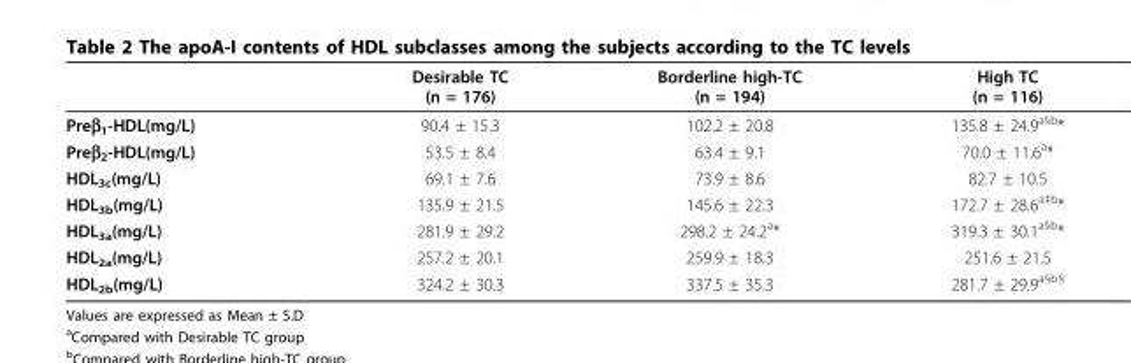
<table><thead><tr><td></td><td>Desirable TC (n = 176)</td><td>Borderline high-TC (n = 194)</td><td>High TC (n = 116)</td></tr></thead><tbody><tr><td>Preβ<sub>1</sub>-HDL(mg/L)</td><td>90.4 ± 15.3</td><td>102.2 ± 20.8</td><td>135.8 ± 24.9<sup>a§b</sup>*</td></tr><tr><td>Preβ<sub>2</sub>-HDL(mg/L)</td><td>53.5 ± 8.4</td><td>63.4 ± 9.1</td><td>70.0 ± 11.6<sup>a</sup>*</td></tr><tr><td>HDL<sub>3c</sub>(mg/L)</td><td>69.1 ± 7.6</td><td>73.9 ± 8.6</td><td>82.7 ± 10.5</td></tr><tr><td>HDL<sub>3b</sub>(mg/L)</td><td>135.9 ± 21.5</td><td>145.6 ± 22.3</td><td>172.7 ± 28.6<sup>a‡b</sup>*</td></tr><tr><td>HDL<sub>3a</sub>(mg/L)</td><td>281.9 ± 29.2</td><td>298.2 ± 24.2<sup>a</sup>*</td><td>319.3 ± 30.1<sup>a§b</sup>*</td></tr><tr><td>HDL<sub>2a</sub>(mg/L)</td><td>257.2 ± 20.1</td><td>259.9 ± 18.3</td><td>251.6 ± 21.5</td></tr><tr><td>HDL<sub>2b</sub>(mg/L)</td><td>324.2 ± 30.3</td><td>337.5 ± 35.3</td><td>281.7 ± 29.9<sup>a§b§</sup></td></tr></tbody></table>